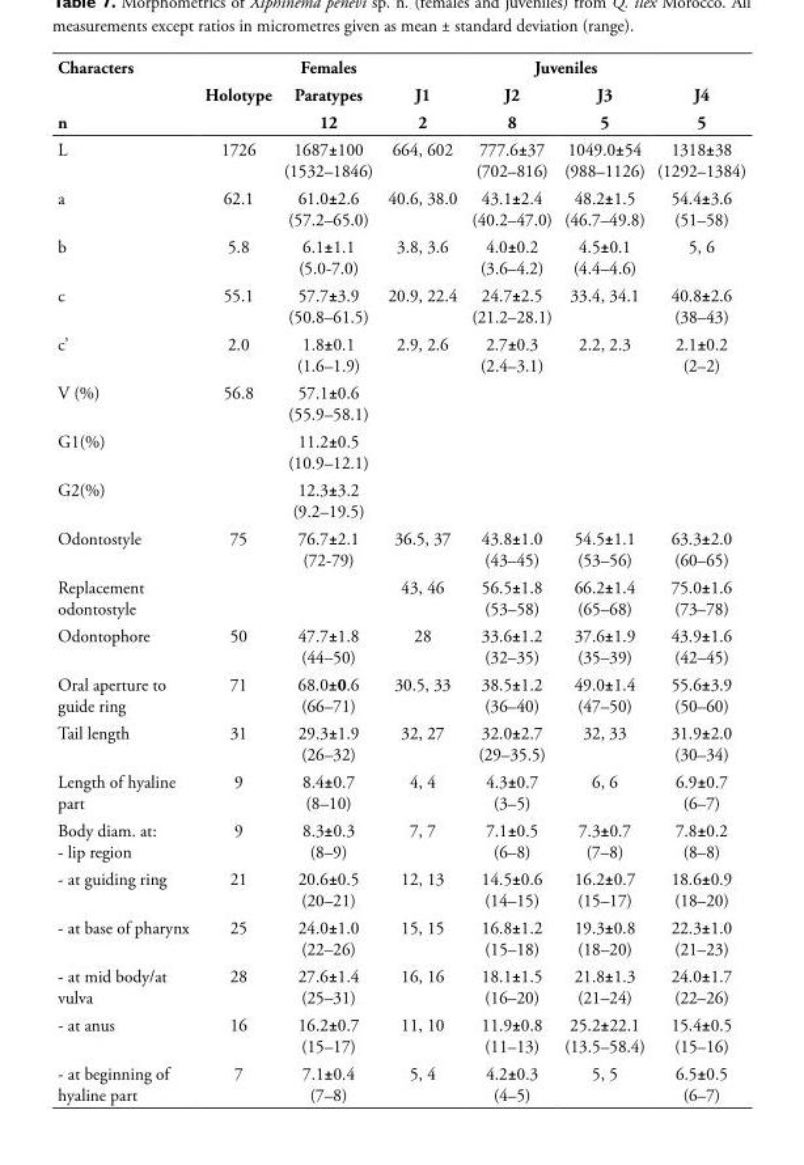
<table><thead><tr><td rowspan="3">Characters n</td><td rowspan="3">Holotype</td><td rowspan="3">Females Paratypes 12</td><td colspan="4">Juveniles</td></tr><tr><td rowspan="2">J1 2</td><td rowspan="2">J2 8</td><td rowspan="2">J3 5</td><td rowspan="2">J4 5</td></tr><tr></tr></thead><tbody><tr><td>L</td><td>1726</td><td>1687±100 (1532–1846)</td><td>664, 602</td><td>777.6±37 (702–816)</td><td>1049.0±54 (988–1126)</td><td>1318±38 (1292–1384)</td></tr><tr><td>a</td><td>62.1</td><td>61.0±2.6 (57.2–65.0)</td><td>40.6, 38.0</td><td>43.1±2.4 (40.2–47.0)</td><td>48.2±1.5 (46.7–49.8)</td><td>54.4±3.6 (51–58)</td></tr><tr><td>b</td><td>5.8</td><td>6.1±1.1 (5.0-7.0)</td><td>3.8, 3.6</td><td>4.0±0.2 (3.6–4.2)</td><td>4.5±0.1 (4.4–4.6)</td><td>5, 6</td></tr><tr><td>c</td><td>55.1</td><td>57.7±3.9 (50.8–61.5)</td><td>20.9, 22.4</td><td>24.7±2.5 (21.2–28.1)</td><td>33.4, 34.1</td><td>40.8±2.6 (38–43)</td></tr><tr><td>c’</td><td>2.0</td><td>1.8±0.1 (1.6–1.9)</td><td>2.9, 2.6</td><td>2.7±0.3 (2.4–3.1)</td><td>2.2, 2.3</td><td>2.1±0.2 (2–2)</td></tr><tr><td>V (%)</td><td>56.8</td><td>57.1±0.6 (55.9–58.1)</td><td></td><td></td><td></td><td></td></tr><tr><td>G1(%)</td><td></td><td>11.2±0.5 (10.9–12.1)</td><td></td><td></td><td></td><td></td></tr><tr><td>G2(%)</td><td></td><td>12.3±3.2 (9.2–19.5)</td><td></td><td></td><td></td><td></td></tr><tr><td>Odontostyle</td><td>75</td><td>76.7±2.1 (72-79)</td><td>36.5, 37</td><td>43.8±1.0 (43–45)</td><td>54.5±1.1 (53–56)</td><td>63.3±2.0 (60–65)</td></tr><tr><td>Replacement odontostyle</td><td></td><td></td><td>43, 46</td><td>56.5±1.8 (53–58)</td><td>66.2±1.4 (65–68)</td><td>75.0±1.6 (73–78)</td></tr><tr><td>Odontophore</td><td>50</td><td>47.7±1.8 (44–50)</td><td>28</td><td>33.6±1.2 (32–35)</td><td>37.6±1.9 (35–39)</td><td>43.9±1.6 (42–45)</td></tr><tr><td>Oral aperture to guide ring</td><td>71</td><td>68.0±0.6 (66–71)</td><td>30.5, 33</td><td>38.5±1.2 (36–40)</td><td>49.0±1.4 (47–50)</td><td>55.6±3.9 (50–60)</td></tr><tr><td>Tail length</td><td>31</td><td>29.3±1.9 (26–32)</td><td>32, 27</td><td>32.0±2.7 (29–35.5)</td><td>32, 33</td><td>31.9±2.0 (30–34)</td></tr><tr><td>Length of hyaline part</td><td>9</td><td>8.4±0.7 (8–10)</td><td>4, 4</td><td>4.3±0.7 (3–5)</td><td>6, 6</td><td>6.9±0.7 (6–7)</td></tr><tr><td>Body diam. at: - lip region</td><td>9</td><td>8.3±0.3 (8–9)</td><td>7, 7</td><td>7.1±0.5 (6–8)</td><td>7.3±0.7 (7–8)</td><td>7.8±0.2 (8–8)</td></tr><tr><td>- at guiding ring</td><td>21</td><td>20.6±0.5 (20–21)</td><td>12, 13</td><td>14.5±0.6 (14–15)</td><td>16.2±0.7 (15–17)</td><td>18.6±0.9 (18–20)</td></tr><tr><td>- at base of pharynx</td><td>25</td><td>24.0±1.0 (22–26)</td><td>15, 15</td><td>16.8±1.2 (15–18)</td><td>19.3±0.8 (18–20)</td><td>22.3±1.0 (21–23)</td></tr><tr><td>- at mid body/at vulva</td><td>28</td><td>27.6±1.4 (25–31)</td><td>16, 16</td><td>18.1±1.5 (16–20)</td><td>21.8±1.3 (21–24)</td><td>24.0±1.7 (22–26)</td></tr><tr><td>- at anus</td><td>16</td><td>16.2±0.7 (15–17)</td><td>11, 10</td><td>11.9±0.8 (11–13)</td><td>25.2±22.1 (13.5–58.4)</td><td>15.4±0.5 (15–16)</td></tr><tr><td>- at beginning of hyaline part</td><td>7</td><td>7.1±0.4 (7–8)</td><td>5, 4</td><td>4.2±0.3 (4–5)</td><td>5, 5</td><td>6.5±0.5 (6–7)</td></tr></tbody></table>